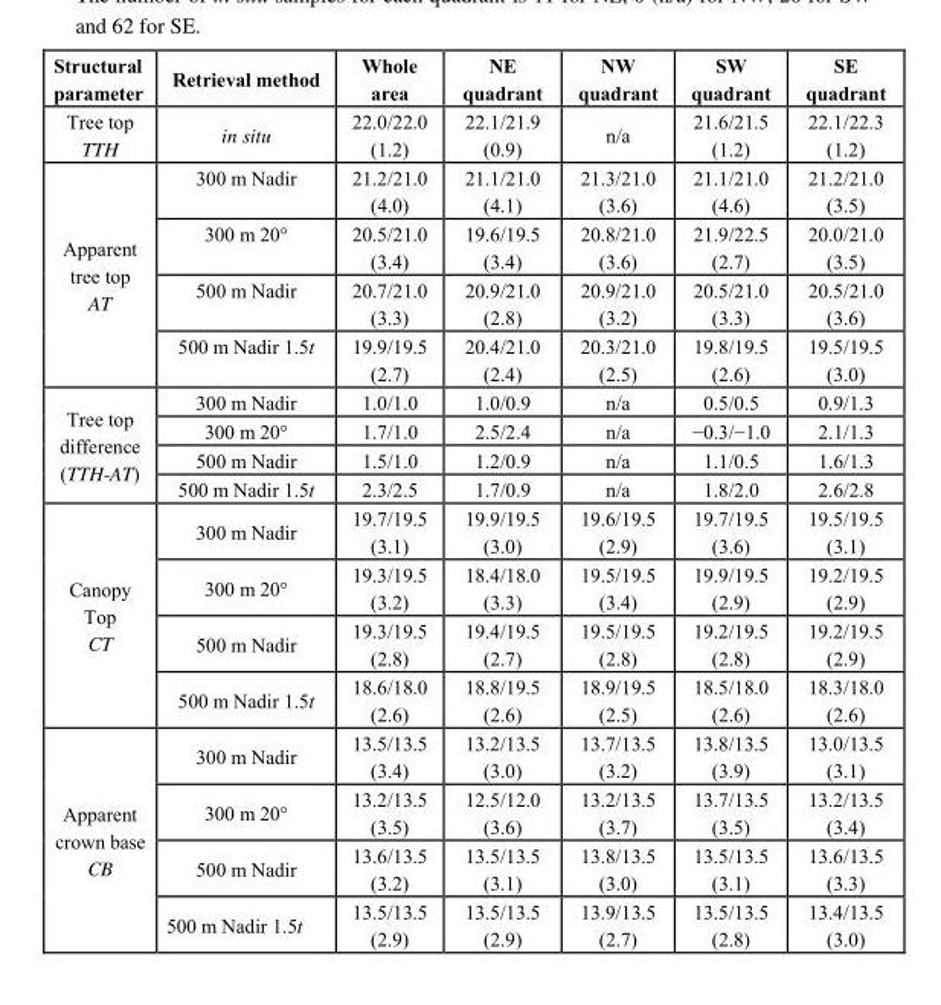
<table><thead><tr><td>Structural parameter</td><td>Retrieval method</td><td>Whole area</td><td>NE quadrant</td><td>NW quadrant</td><td>SW quadrant</td><td>SE quadrant</td></tr></thead><tbody><tr><td>Tree top TTH</td><td>in situ</td><td>22.0/22.0 (1.2)</td><td>22.1/21.9 (0.9)</td><td>n/a</td><td>21.6/21.5 (1.2)</td><td>22.1/22.3 (1.2)</td></tr><tr><td rowspan="4">Apparent tree top AT</td><td>300 m Nadir</td><td>21.2/21.0 (4.0)</td><td>21.1/21.0 (4.1)</td><td>21.3/21.0 (3.6)</td><td>21.1/21.0 (4.6)</td><td>21.2/21.0 (3.5)</td></tr><tr><td>300 m 20°</td><td>20.5/21.0 (3.4)</td><td>19.6/19.5 (3.4)</td><td>20.8/21.0 (3.6)</td><td>21.9/22.5 (2.7)</td><td>20.0/21.0 (3.5)</td></tr><tr><td>500 m Nadir</td><td>20.7/21.0 (3.3)</td><td>20.9/21.0 (2.8)</td><td>20.9/21.0 (3.2)</td><td>20.5/21.0 (3.3)</td><td>20.5/21.0 (3.6)</td></tr><tr><td>500 m Nadir 1.5t</td><td>19.9/19.5 (2.7)</td><td>20.4/21.0 (2.4)</td><td>20.3/21.0 (2.5)</td><td>19.8/19.5 (2.6)</td><td>19.5/19.5 (3.0)</td></tr><tr><td rowspan="4">Tree top difference (TTH-AT)</td><td>300 m Nadir</td><td>1.0/1.0</td><td>1.0/0.9</td><td>n/a</td><td>0.5/0.5</td><td>0.9/1.3</td></tr><tr><td>300 m 20°</td><td>1.7/1.0</td><td>2.5/2.4</td><td>n/a</td><td>−0.3/−1.0</td><td>2.1/1.3</td></tr><tr><td>500 m Nadir</td><td>1.5/1.0</td><td>1.2/0.9</td><td>n/a</td><td>1.1/0.5</td><td>1.6/1.3</td></tr><tr><td>500 m Nadir 1.5t</td><td>2.3/2.5</td><td>1.7/0.9</td><td>n/a</td><td>1.8/2.0</td><td>2.6/2.8</td></tr><tr><td rowspan="4">Canopy Top CT</td><td>300 m Nadir</td><td>19.7/19.5 (3.1)</td><td>19.9/19.5 (3.0)</td><td>19.6/19.5 (2.9)</td><td>19.7/19.5 (3.6)</td><td>19.5/19.5 (3.1)</td></tr><tr><td>300 m 20°</td><td>19.3/19.5 (3.2)</td><td>18.4/18.0 (3.3)</td><td>19.5/19.5 (3.4)</td><td>19.9/19.5 (2.9)</td><td>19.2/19.5 (2.9)</td></tr><tr><td>500 m Nadir</td><td>19.3/19.5 (2.8)</td><td>19.4/19.5 (2.7)</td><td>19.5/19.5 (2.8)</td><td>19.2/19.5 (2.8)</td><td>19.2/19.5 (2.9)</td></tr><tr><td>500 m Nadir 1.5t</td><td>18.6/18.0 (2.6)</td><td>18.8/19.5 (2.6)</td><td>18.9/19.5 (2.5)</td><td>18.5/18.0 (2.6)</td><td>18.3/18.0 (2.6)</td></tr><tr><td rowspan="4">Apparent crown base CB</td><td>300 m Nadir</td><td>13.5/13.5 (3.4)</td><td>13.2/13.5 (3.0)</td><td>13.7/13.5 (3.2)</td><td>13.8/13.5 (3.9)</td><td>13.0/13.5 (3.1)</td></tr><tr><td>300 m 20°</td><td>13.2/13.5 (3.5)</td><td>12.5/12.0 (3.6)</td><td>13.2/13.5 (3.7)</td><td>13.7/13.5 (3.5)</td><td>13.2/13.5 (3.4)</td></tr><tr><td>500 m Nadir</td><td>13.6/13.5 (3.2)</td><td>13.5/13.5 (3.1)</td><td>13.8/13.5 (3.0)</td><td>13.5/13.5 (3.1)</td><td>13.6/13.5 (3.3)</td></tr><tr><td>500 m Nadir 1.5t</td><td>13.5/13.5 (2.9)</td><td>13.5/13.5 (2.9)</td><td>13.9/13.5 (2.7)</td><td>13.5/13.5 (2.8)</td><td>13.4/13.5 (3.0)</td></tr></tbody></table>